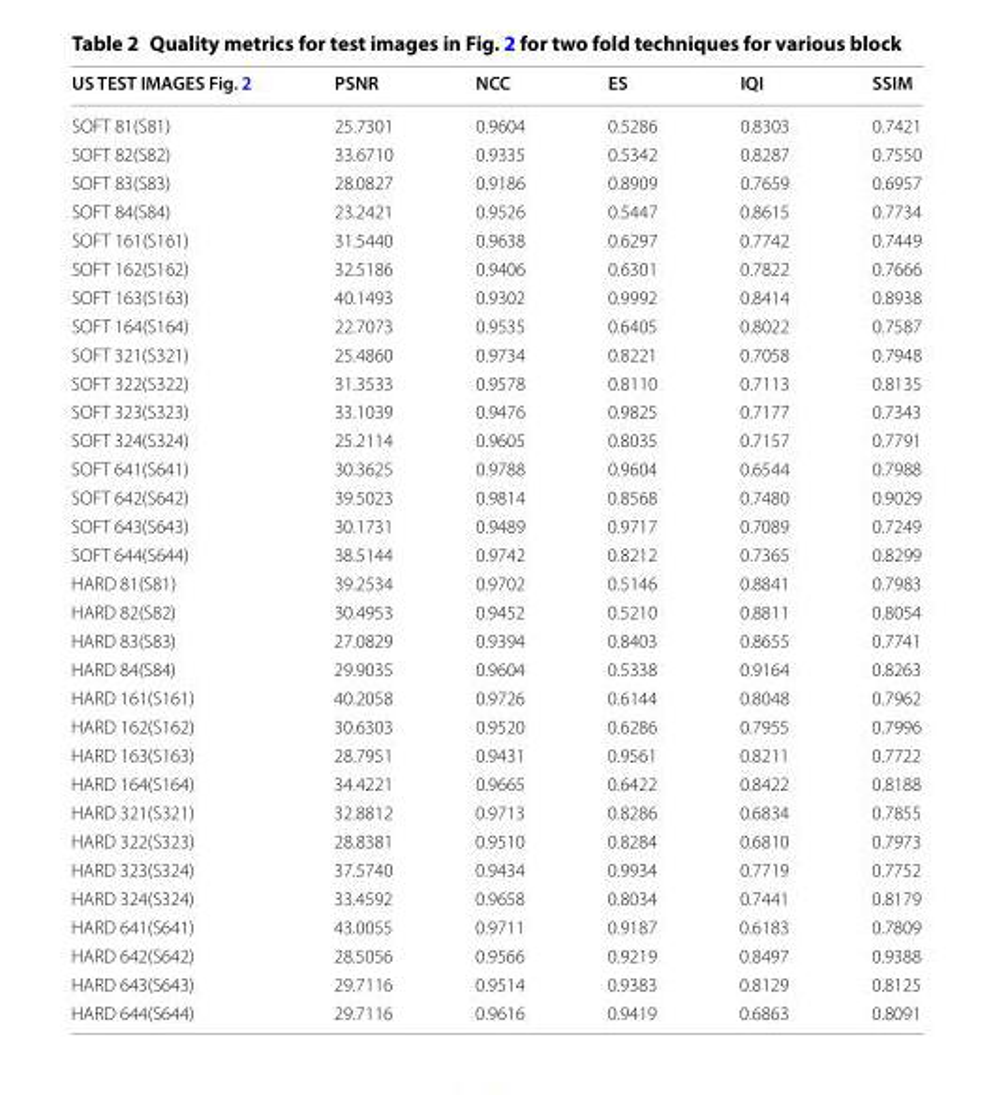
<table><thead><tr><td>US TEST IMAGES Fig. 2</td><td>PSNR</td><td>NCC</td><td>ES</td><td>IQI</td><td>SSIM</td></tr></thead><tbody><tr><td>SOFT 81(S81)</td><td>25.7301</td><td>0.9604</td><td>0.5286</td><td>0.8303</td><td>0.7421</td></tr><tr><td>SOFT 82(S82)</td><td>33.6710</td><td>0.9335</td><td>0.5342</td><td>0.8287</td><td>0.7550</td></tr><tr><td>SOFT 83(S83)</td><td>28.0827</td><td>0.9186</td><td>0.8909</td><td>0.7659</td><td>0.6957</td></tr><tr><td>SOFT 84(S84)</td><td>23.2421</td><td>0.9526</td><td>0.5447</td><td>0.8615</td><td>0.7734</td></tr><tr><td>SOFT 161(S161)</td><td>31.5440</td><td>0.9638</td><td>0.6297</td><td>0.7742</td><td>0.7449</td></tr><tr><td>SOFT 162(S162)</td><td>32.5186</td><td>0.9406</td><td>0.6301</td><td>0.7822</td><td>0.7666</td></tr><tr><td>SOFT 163(S163)</td><td>40.1493</td><td>0.9302</td><td>0.9992</td><td>0.8414</td><td>0.8938</td></tr><tr><td>SOFT 164(S164)</td><td>22.7073</td><td>0.9535</td><td>0.6405</td><td>0.8022</td><td>0.7587</td></tr><tr><td>SOFT 321(S321)</td><td>25.4860</td><td>0.9734</td><td>0.8221</td><td>0.7058</td><td>0.7948</td></tr><tr><td>SOFT 322(S322)</td><td>31.3533</td><td>0.9578</td><td>0.8110</td><td>0.7113</td><td>0.8135</td></tr><tr><td>SOFT 323(S323)</td><td>33.1039</td><td>0.9476</td><td>0.9825</td><td>0.7177</td><td>0.7343</td></tr><tr><td>SOFT 324(S324)</td><td>25.2114</td><td>0.9605</td><td>0.8035</td><td>0.7157</td><td>0.7791</td></tr><tr><td>SOFT 641(S641)</td><td>30.3625</td><td>0.9788</td><td>0.9604</td><td>0.6544</td><td>0.7988</td></tr><tr><td>SOFT 642(S642)</td><td>39.5023</td><td>0.9814</td><td>0.8568</td><td>0.7480</td><td>0.9029</td></tr><tr><td>SOFT 643(S643)</td><td>30.1731</td><td>0.9489</td><td>0.9717</td><td>0.7089</td><td>0.7249</td></tr><tr><td>SOFT 644(S644)</td><td>38.5144</td><td>0.9742</td><td>0.8212</td><td>0.7365</td><td>0.8299</td></tr><tr><td>HARD 81(S81)</td><td>39.2534</td><td>0.9702</td><td>0.5146</td><td>0.8841</td><td>0.7983</td></tr><tr><td>HARD 82(S82)</td><td>30.4953</td><td>0.9452</td><td>0.5210</td><td>0.8811</td><td>0.8054</td></tr><tr><td>HARD 83(S83)</td><td>27.0829</td><td>0.9394</td><td>0.8403</td><td>0.8655</td><td>0.7741</td></tr><tr><td>HARD 84(S84)</td><td>29.9035</td><td>0.9604</td><td>0.5338</td><td>0.9164</td><td>0.8263</td></tr><tr><td>HARD 161(S161)</td><td>40.2058</td><td>0.9726</td><td>0.6144</td><td>0.8048</td><td>0.7962</td></tr><tr><td>HARD 162(S162)</td><td>30.6303</td><td>0.9520</td><td>0.6286</td><td>0.7955</td><td>0.7996</td></tr><tr><td>HARD 163(S163)</td><td>28.7951</td><td>0.9431</td><td>0.9561</td><td>0.8211</td><td>0.7722</td></tr><tr><td>HARD 164(S164)</td><td>34.4221</td><td>0.9665</td><td>0.6422</td><td>0.8422</td><td>0.8188</td></tr><tr><td>HARD 321(S321)</td><td>32.8812</td><td>0.9713</td><td>0.8286</td><td>0.6834</td><td>0.7855</td></tr><tr><td>HARD 322(S323)</td><td>28.8381</td><td>0.9510</td><td>0.8284</td><td>0.6810</td><td>0.7973</td></tr><tr><td>HARD 323(S324)</td><td>37.5740</td><td>0.9434</td><td>0.9934</td><td>0.7719</td><td>0.7752</td></tr><tr><td>HARD 324(S324)</td><td>33.4592</td><td>0.9658</td><td>0.8034</td><td>0.7441</td><td>0.8179</td></tr><tr><td>HARD 641(S641)</td><td>43.0055</td><td>0.9711</td><td>0.9187</td><td>0.6183</td><td>0.7809</td></tr><tr><td>HARD 642(S642)</td><td>28.5056</td><td>0.9566</td><td>0.9219</td><td>0.8497</td><td>0.9388</td></tr><tr><td>HARD 643(S643)</td><td>29.7116</td><td>0.9514</td><td>0.9383</td><td>0.8129</td><td>0.8125</td></tr><tr><td>HARD 644(S644)</td><td>29.7116</td><td>0.9616</td><td>0.9419</td><td>0.6863</td><td>0.8091</td></tr></tbody></table>